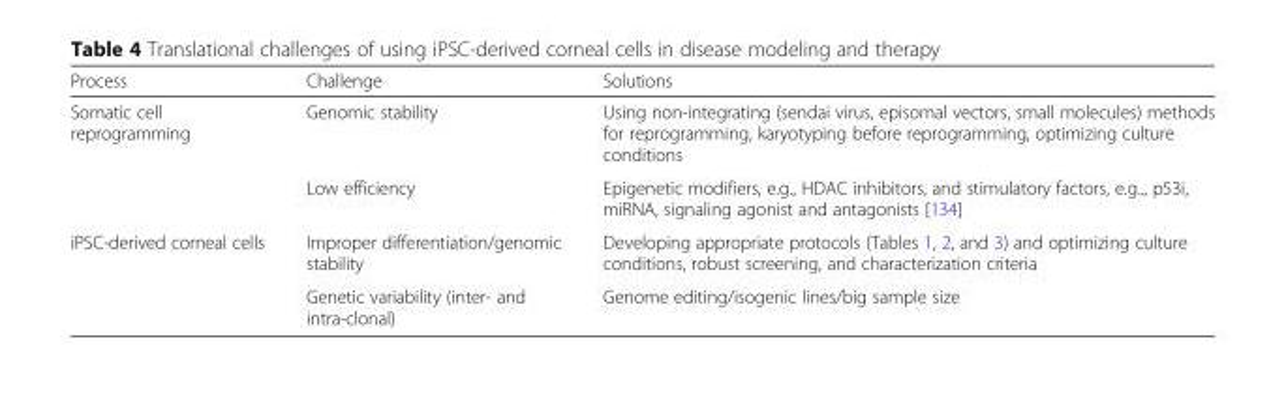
<table><thead><tr><td>Process</td><td>Challenge</td><td>Solutions</td></tr></thead><tbody><tr><td rowspan="2">Somatic cell reprogramming</td><td>Genomic stability</td><td>Using non-integrating (sendai virus, episomal vectors, small molecules) methods for reprogramming, karyotyping before reprogramming, optimizing culture conditions</td></tr><tr><td>Low efficiency</td><td>Epigenetic modifiers, e.g., HDAC inhibitors, and stimulatory factors, e.g.., p53i, miRNA, signaling agonist and antagonists [134]</td></tr><tr><td rowspan="2">iPSC-derived corneal cells</td><td>Improper differentiation/genomic stability</td><td>Developing appropriate protocols (Tables 1, 2, and 3) and optimizing culture conditions, robust screening, and characterization criteria</td></tr><tr><td>Genetic variability (inter- and intra-clonal)</td><td>Genome editing/isogenic lines/big sample size</td></tr></tbody></table>